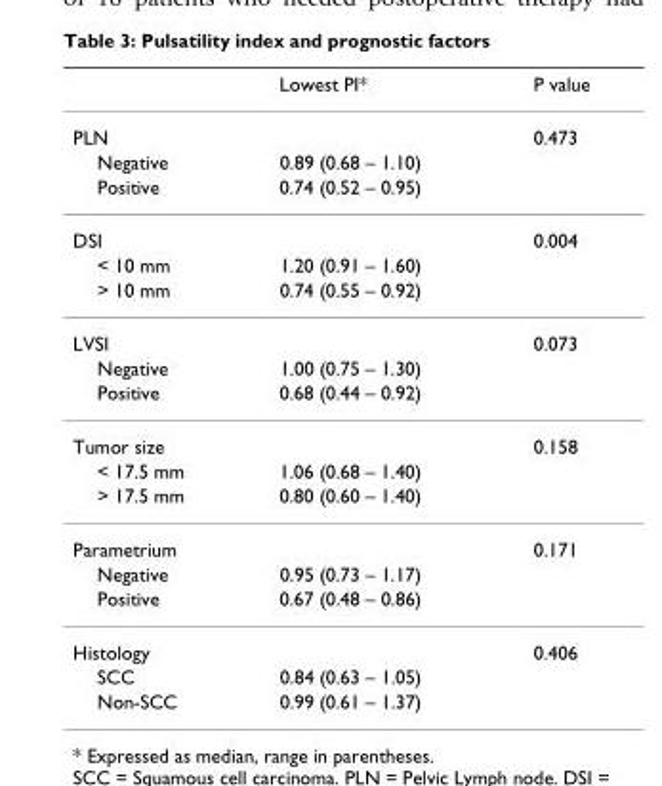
<table><thead><tr><td></td><td>Lowest PI*</td><td>P value</td></tr></thead><tbody><tr><td>PLN</td><td></td><td>0.473</td></tr><tr><td>Negative</td><td>0.89 (0.68 – 1.10)</td><td></td></tr><tr><td>Positive</td><td>0.74 (0.52 – 0.95)</td><td></td></tr><tr><td>DSI</td><td></td><td>0.004</td></tr><tr><td>&lt; 10 mm</td><td>1.20 (0.91 – 1.60)</td><td></td></tr><tr><td>&gt; 10 mm</td><td>0.74 (0.55 – 0.92)</td><td></td></tr><tr><td>LVSI</td><td></td><td>0.073</td></tr><tr><td>Negative</td><td>1.00 (0.75 – 1.30)</td><td></td></tr><tr><td>Positive</td><td>0.68 (0.44 – 0.92)</td><td></td></tr><tr><td>Tumor size</td><td></td><td>0.158</td></tr><tr><td>&lt; 17.5 mm</td><td>1.06 (0.68 – 1.40)</td><td></td></tr><tr><td>&gt; 17.5 mm</td><td>0.80 (0.60 – 1.40)</td><td></td></tr><tr><td>Parametrium</td><td></td><td>0.171</td></tr><tr><td>Negative</td><td>0.95 (0.73 – 1.17)</td><td></td></tr><tr><td>Positive</td><td>0.67 (0.48 – 0.86)</td><td></td></tr><tr><td>Histology</td><td></td><td>0.406</td></tr><tr><td>SCC</td><td>0.84 (0.63 – 1.05)</td><td></td></tr><tr><td>Non-SCC</td><td>0.99 (0.61 – 1.37)</td><td></td></tr></tbody></table>